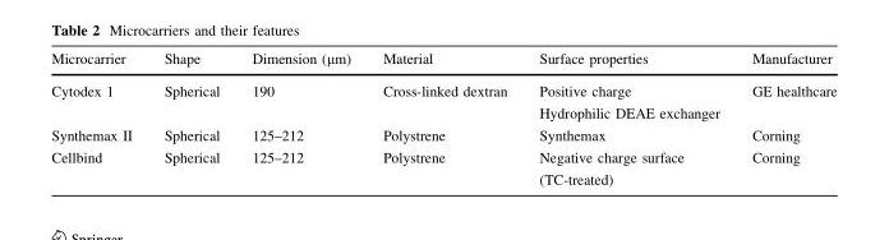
<table><thead><tr><td>Microcarrier</td><td>Shape</td><td>Dimension (μm)</td><td>Material</td><td>Surface properties</td><td>Manufacturer</td></tr></thead><tbody><tr><td>Cytodex 1</td><td>Spherical</td><td>190</td><td>Cross-linked dextran</td><td>Positive charge Hydrophilic DEAE exchanger</td><td>GE healthcare</td></tr><tr><td>Synthemax II</td><td>Spherical</td><td>125–212</td><td>Polystrene</td><td>Synthemax</td><td>Corning</td></tr><tr><td>Cellbind</td><td>Spherical</td><td>125–212</td><td>Polystrene</td><td>Negative charge surface (TC-treated)</td><td>Corning</td></tr></tbody></table>